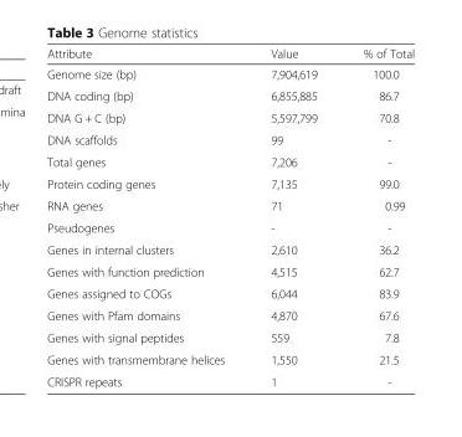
<table><thead><tr><td>Attribute</td><td>Value</td><td>% of Total</td></tr></thead><tbody><tr><td>Genome size (bp)</td><td>7,904,619</td><td>100.0</td></tr><tr><td>DNA coding (bp)</td><td>6,855,885</td><td>86.7</td></tr><tr><td>DNA G + C (bp)</td><td>5,597,799</td><td>70.8</td></tr><tr><td>DNA scaffolds</td><td>99</td><td>-</td></tr><tr><td>Total genes</td><td>7,206</td><td>-</td></tr><tr><td>Protein coding genes</td><td>7,135</td><td>99.0</td></tr><tr><td>RNA genes</td><td>71</td><td>0.99</td></tr><tr><td>Pseudogenes</td><td>-</td><td>-</td></tr><tr><td>Genes in internal clusters</td><td>2,610</td><td>36.2</td></tr><tr><td>Genes with function prediction</td><td>4,515</td><td>62.7</td></tr><tr><td>Genes assigned to COGs</td><td>6,044</td><td>83.9</td></tr><tr><td>Genes with Pfam domains</td><td>4,870</td><td>67.6</td></tr><tr><td>Genes with signal peptides</td><td>559</td><td>7.8</td></tr><tr><td>Genes with transmembrane helices</td><td>1,550</td><td>21.5</td></tr><tr><td>CRISPR repeats</td><td>1</td><td>-</td></tr></tbody></table>